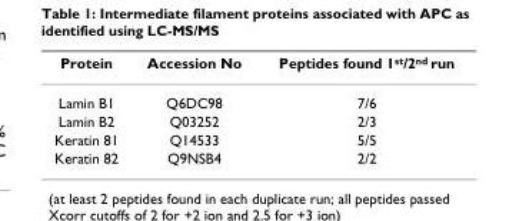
<table><thead><tr><td>Protein</td><td>Accession No</td><td>Peptides found 1<sup>st</sup>/2<sup>nd</sup> run</td></tr></thead><tbody><tr><td>Lamin B1</td><td>Q6DC98</td><td>7/6</td></tr><tr><td>Lamin B2</td><td>Q03252</td><td>2/3</td></tr><tr><td>Keratin 81</td><td>Q14533</td><td>5/5</td></tr><tr><td>Keratin 82</td><td>Q9NSB4</td><td>2/2</td></tr></tbody></table>